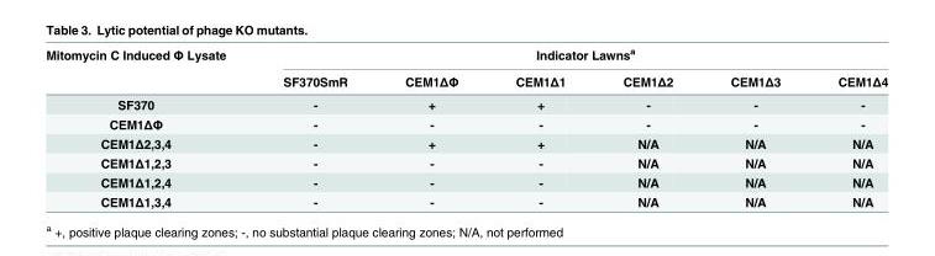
<table><thead><tr><td rowspan="2">Mitomycin C Induced Φ Lysate</td><td colspan="6">Indicator Lawns<sup>a</sup></td></tr><tr><td>SF370SmR</td><td>CEM1ΔΦ</td><td>CEM1Δ1</td><td>CEM1Δ2</td><td>CEM1Δ3</td><td>CEM1Δ4</td></tr></thead><tbody><tr><td>SF370</td><td>-</td><td>+</td><td>+</td><td>-</td><td>-</td><td>-</td></tr><tr><td>CEM1ΔΦ</td><td>-</td><td>-</td><td>-</td><td>-</td><td>-</td><td>-</td></tr><tr><td>CEM1Δ2,3,4</td><td>-</td><td>+</td><td>+</td><td>N/A</td><td>N/A</td><td>N/A</td></tr><tr><td>CEM1Δ1,2,3</td><td>-</td><td>-</td><td>-</td><td>N/A</td><td>N/A</td><td>N/A</td></tr><tr><td>CEM1Δ1,2,4</td><td>-</td><td>-</td><td>-</td><td>N/A</td><td>N/A</td><td>N/A</td></tr><tr><td>CEM1Δ1,3,4</td><td>-</td><td>-</td><td>-</td><td>N/A</td><td>N/A</td><td>N/A</td></tr></tbody></table>